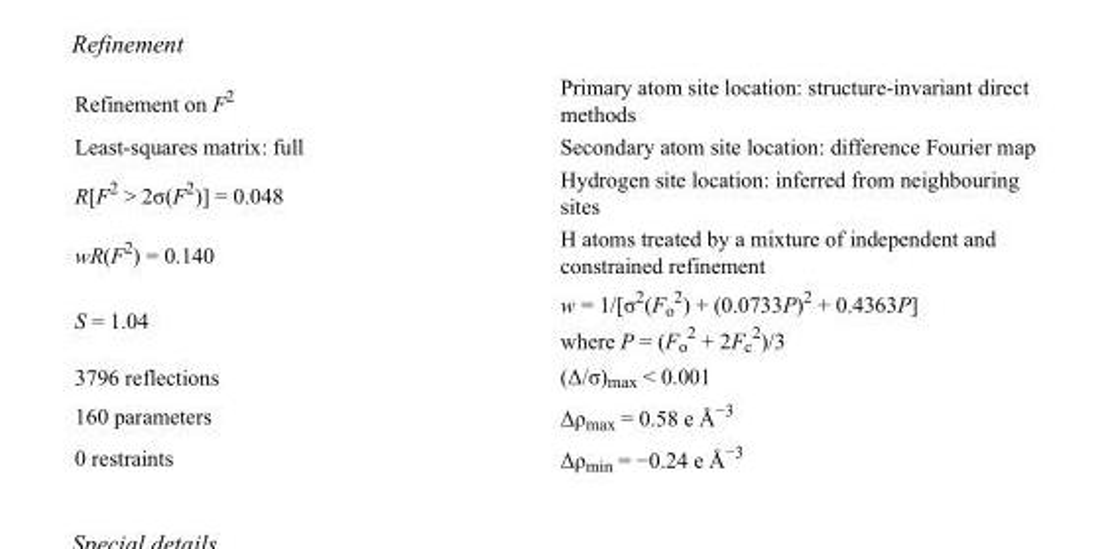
<table><tbody><tr><td>Refinement on F<sup>2</sup></td><td>Primary atom site location: structure-invariant direct methods</td></tr><tr><td>Least-squares matrix: full</td><td>Secondary atom site location: difference Fourier map</td></tr><tr><td>R[F<sup>2</sup> &gt; 2σ(F<sup>2</sup>)] = 0.048</td><td>Hydrogen site location: inferred from neighbouring sites</td></tr><tr><td>wR(F<sup>2</sup>) = 0.140</td><td>H atoms treated by a mixture of independent and constrained refinement</td></tr><tr><td>S = 1.04</td><td>w = 1/[σ<sup>2</sup>(F<sub>o</sub> <sup>2</sup>) + (0.0733P)<sup>2</sup> + 0.4363P] where P = (F<sub>o</sub> <sup>2</sup> + 2F<sub>c</sub> <sup>2</sup>)/3</td></tr><tr><td>3796 reflections</td><td>(Δ/σ)<sub>max</sub> &lt; 0.001</td></tr><tr><td>160 parameters</td><td>Δρ<sub>max</sub> = 0.58 e Å<sup>−3</sup></td></tr><tr><td>0 restraints</td><td>Δρ<sub>min</sub> = −0.24 e Å<sup>−3</sup></td></tr></tbody></table>